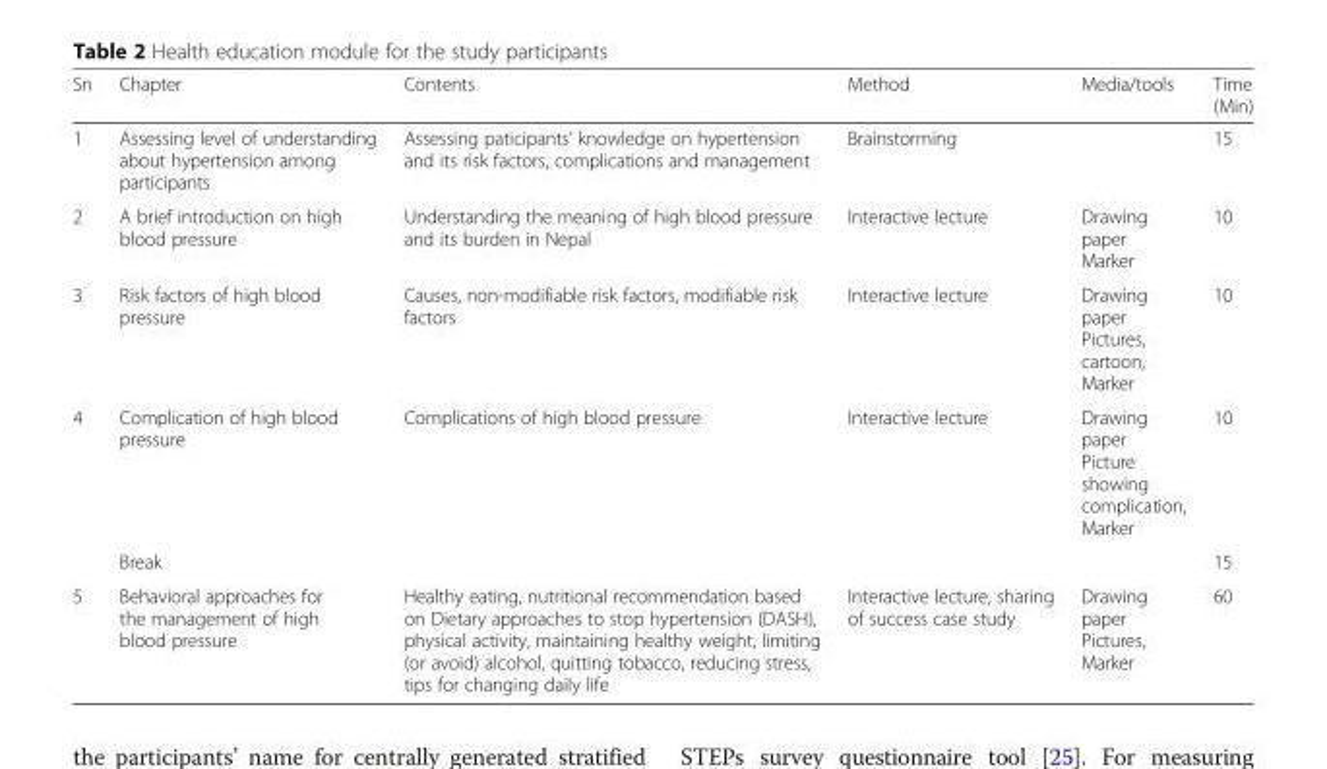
<table><thead><tr><td>Sn</td><td>Chapter</td><td>Contents</td><td>Method</td><td>Media/tools</td><td>Time (Min)</td></tr></thead><tbody><tr><td>1</td><td>Assessing level of understanding about hypertension among participants</td><td>Assessing paticipants’ knowledge on hypertension and its risk factors, complications and management</td><td>Brainstorming</td><td></td><td>15</td></tr><tr><td>2</td><td>A brief introduction on high blood pressure</td><td>Understanding the meaning of high blood pressure and its burden in Nepal</td><td>Interactive lecture</td><td>Drawing paper Marker</td><td>10</td></tr><tr><td>3</td><td>Risk factors of high blood pressure</td><td>Causes, non-modifiable risk factors, modifiable risk factors</td><td>Interactive lecture</td><td>Drawing paper Pictures, cartoon, Marker</td><td>10</td></tr><tr><td rowspan="2">4</td><td>Complication of high blood pressure</td><td>Complications of high blood pressure</td><td>Interactive lecture</td><td>Drawing paper Picture showing complication, Marker</td><td>10</td></tr><tr><td>Break</td><td></td><td></td><td></td><td>15</td></tr><tr><td>5</td><td>Behavioral approaches for the management of high blood pressure</td><td>Healthy eating, nutritional recommendation based on Dietary approaches to stop hypertension (DASH), physical activity, maintaining healthy weight, limiting (or avoid) alcohol, quitting tobacco, reducing stress, tips for changing daily life</td><td>Interactive lecture, sharing of success case study</td><td>Drawing paper Pictures, Marker</td><td>60</td></tr></tbody></table>